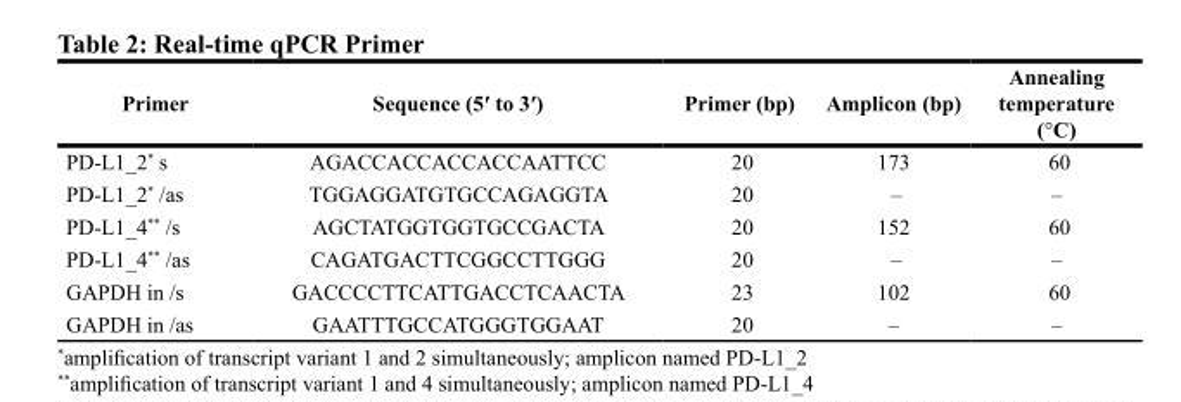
<table><thead><tr><td>Primer</td><td>Sequence (5′ to 3′)</td><td>Primer (bp)</td><td>Amplicon (bp)</td><td>Annealing temperature (°C)</td></tr></thead><tbody><tr><td>PD-L1_2* s</td><td>AGACCACCACCACCAATTCC</td><td>20</td><td>173</td><td>60</td></tr><tr><td>PD-L1_2* /as</td><td>TGGAGGATGTGCCAGAGGTA</td><td>20</td><td>–</td><td>–</td></tr><tr><td>PD-L1_4** /s</td><td>AGCTATGGTGGTGCCGACTA</td><td>20</td><td>152</td><td>60</td></tr><tr><td>PD-L1_4** /as</td><td>CAGATGACTTCGGCCTTGGG</td><td>20</td><td>–</td><td>–</td></tr><tr><td>GAPDH in /s</td><td>GACCCCTTCATTGACCTCAACTA</td><td>23</td><td>102</td><td>60</td></tr><tr><td>GAPDH in /as</td><td>GAATTTGCCATGGGTGGAAT</td><td>20</td><td>–</td><td>–</td></tr></tbody></table>